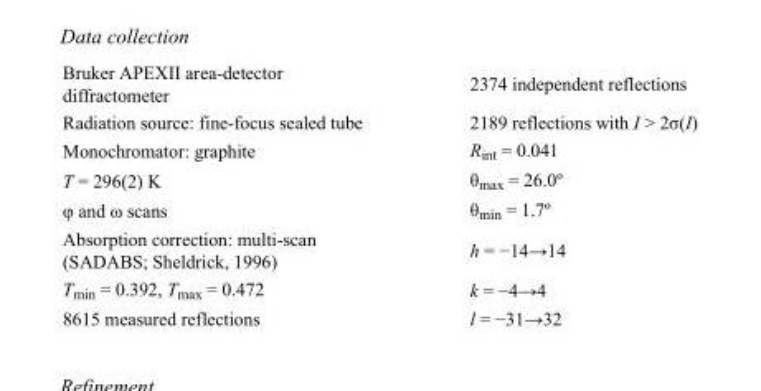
<table><tbody><tr><td>Bruker APEXII area-detector diffractometer</td><td>2374 independent reflections</td></tr><tr><td>Radiation source: fine-focus sealed tube</td><td>2189 reflections with I &gt; 2σ(I)</td></tr><tr><td>Monochromator: graphite</td><td>R<sub>int</sub> = 0.041</td></tr><tr><td>T = 296(2) K</td><td>θ<sub>max</sub> = 26.0º</td></tr><tr><td>φ and ω scans</td><td>θ<sub>min</sub> = 1.7º</td></tr><tr><td>Absorption correction: multi-scan (SADABS; Sheldrick, 1996)</td><td>h = −14→14</td></tr><tr><td>T<sub>min</sub> = 0.392, T<sub>max</sub> = 0.472</td><td>k = −4→4</td></tr><tr><td>8615 measured reflections</td><td>l = −31→32</td></tr></tbody></table>